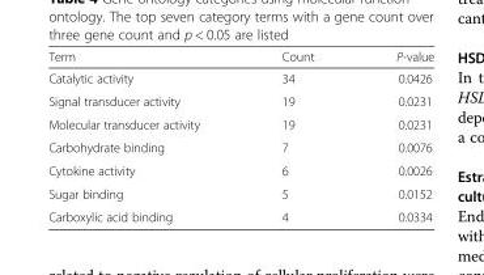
<table><thead><tr><td>Term</td><td>Count</td><td>P-value</td></tr></thead><tbody><tr><td>Catalytic activity</td><td>34</td><td>0.0426</td></tr><tr><td>Signal transducer activity</td><td>19</td><td>0.0231</td></tr><tr><td>Molecular transducer activity</td><td>19</td><td>0.0231</td></tr><tr><td>Carbohydrate binding</td><td>7</td><td>0.0076</td></tr><tr><td>Cytokine activity</td><td>6</td><td>0.0026</td></tr><tr><td>Sugar binding</td><td>5</td><td>0.0152</td></tr><tr><td>Carboxylic acid binding</td><td>4</td><td>0.0334</td></tr></tbody></table>